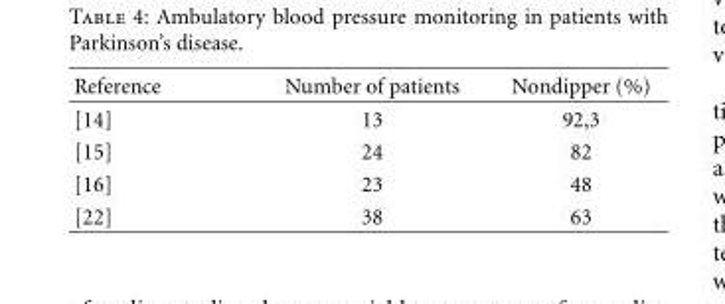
<table><thead><tr><td>Reference</td><td>Number of patients</td><td>Nondipper (%)</td></tr></thead><tbody><tr><td>[14]</td><td>13</td><td>92,3</td></tr><tr><td>[15]</td><td>24</td><td>82</td></tr><tr><td>[16]</td><td>23</td><td>48</td></tr><tr><td>[22]</td><td>38</td><td>63</td></tr></tbody></table>